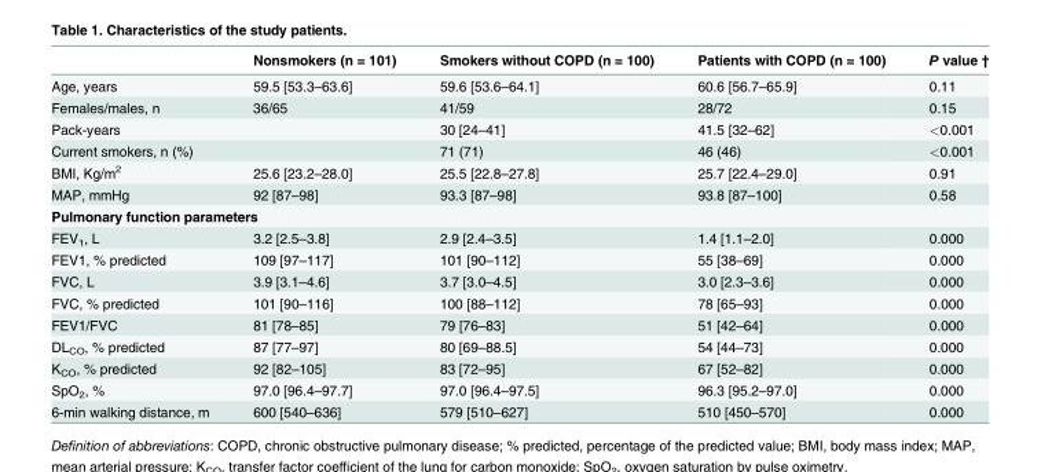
<table><thead><tr><td></td><td>Nonsmokers (n = 101)</td><td>Smokers without COPD (n = 100)</td><td>Patients with COPD (n = 100)</td><td>P value †</td></tr></thead><tbody><tr><td>Age, years</td><td>59.5 [53.3–63.6]</td><td>59.6 [53.6–64.1]</td><td>60.6 [56.7–65.9]</td><td>0.11</td></tr><tr><td>Females/males, n</td><td>36/65</td><td>41/59</td><td>28/72</td><td>0.15</td></tr><tr><td>Pack-years</td><td></td><td>30 [24–41]</td><td>41.5 [32–62]</td><td>&lt;0.001</td></tr><tr><td>Current smokers, n (%)</td><td></td><td>71 (71)</td><td>46 (46)</td><td>&lt;0.001</td></tr><tr><td>BMI, Kg/m<sup>2</sup></td><td>25.6 [23.2–28.0]</td><td>25.5 [22.8–27.8]</td><td>25.7 [22.4–29.0]</td><td>0.91</td></tr><tr><td>MAP, mmHg</td><td>92 [87–98]</td><td>93.3 [87–98]</td><td>93.8 [87–100]</td><td>0.58</td></tr><tr><td colspan="5">Pulmonary function parameters</td></tr><tr><td>FEV<sub>1</sub>, L</td><td>3.2 [2.5–3.8]</td><td>2.9 [2.4–3.5]</td><td>1.4 [1.1–2.0]</td><td>0.000</td></tr><tr><td>FEV1, % predicted</td><td>109 [97–117]</td><td>101 [90–112]</td><td>55 [38–69]</td><td>0.000</td></tr><tr><td>FVC, L</td><td>3.9 [3.1–4.6]</td><td>3.7 [3.0–4.5]</td><td>3.0 [2.3–3.6]</td><td>0.000</td></tr><tr><td>FVC, % predicted</td><td>101 [90–116]</td><td>100 [88–112]</td><td>78 [65–93]</td><td>0.000</td></tr><tr><td>FEV1/FVC</td><td>81 [78–85]</td><td>79 [76–83]</td><td>51 [42–64]</td><td>0.000</td></tr><tr><td>DL<sub>CO</sub>, % predicted</td><td>87 [77–97]</td><td>80 [69–88.5]</td><td>54 [44–73]</td><td>0.000</td></tr><tr><td>K<sub>CO</sub>, % predicted</td><td>92 [82–105]</td><td>83 [72–95]</td><td>67 [52–82]</td><td>0.000</td></tr><tr><td>SpO<sub>2</sub>, %</td><td>97.0 [96.4–97.7]</td><td>97.0 [96.4–97.5]</td><td>96.3 [95.2–97.0]</td><td>0.000</td></tr><tr><td>6-min walking distance, m</td><td>600 [540–636]</td><td>579 [510–627]</td><td>510 [450–570]</td><td>0.000</td></tr></tbody></table>